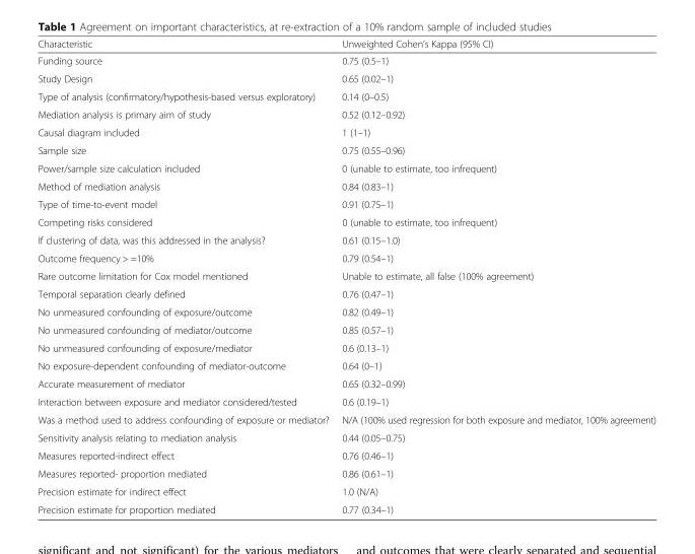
<table><thead><tr><td>Characteristic</td><td>Unweighted Cohen’s Kappa (95% CI)</td></tr></thead><tbody><tr><td>Funding source</td><td>0.75 (0.5–1)</td></tr><tr><td>Study Design</td><td>0.65 (0.02–1)</td></tr><tr><td>Type of analysis (confirmatory/hypothesis-based versus exploratory)</td><td>0.14 (0–0.5)</td></tr><tr><td>Mediation analysis is primary aim of study</td><td>0.52 (0.12–0.92)</td></tr><tr><td>Causal diagram included</td><td>1 (1–1)</td></tr><tr><td>Sample size</td><td>0.75 (0.55–0.96)</td></tr><tr><td>Power/sample size calculation included</td><td>0 (unable to estimate, too infrequent)</td></tr><tr><td>Method of mediation analysis</td><td>0.84 (0.83–1)</td></tr><tr><td>Type of time-to-event model</td><td>0.91 (0.75–1)</td></tr><tr><td>Competing risks considered</td><td>0 (unable to estimate, too infrequent)</td></tr><tr><td>If clustering of data, was this addressed in the analysis?</td><td>0.61 (0.15–1.0)</td></tr><tr><td>Outcome frequency &gt; =10%</td><td>0.79 (0.54–1)</td></tr><tr><td>Rare outcome limitation for Cox model mentioned</td><td>Unable to estimate, all false (100% agreement)</td></tr><tr><td>Temporal separation clearly defined</td><td>0.76 (0.47–1)</td></tr><tr><td>No unmeasured confounding of exposure/outcome</td><td>0.82 (0.49–1)</td></tr><tr><td>No unmeasured confounding of mediator/outcome</td><td>0.85 (0.57–1)</td></tr><tr><td>No unmeasured confounding of exposure/mediator</td><td>0.6 (0.13–1)</td></tr><tr><td>No exposure-dependent confounding of mediator-outcome</td><td>0.64 (0–1)</td></tr><tr><td>Accurate measurement of mediator</td><td>0.65 (0.32–0.99)</td></tr><tr><td>Interaction between exposure and mediator considered/tested</td><td>0.6 (0.19–1)</td></tr><tr><td>Was a method used to address confounding of exposure or mediator?</td><td>N/A (100% used regression for both exposure and mediator, 100% agreement)</td></tr><tr><td>Sensitivity analysis relating to mediation analysis</td><td>0.44 (0.05–0.75)</td></tr><tr><td>Measures reported-indirect effect</td><td>0.76 (0.46–1)</td></tr><tr><td>Measures reported- proportion mediated</td><td>0.86 (0.61–1)</td></tr><tr><td>Precision estimate for indirect effect</td><td>1.0 (N/A)</td></tr><tr><td>Precision estimate for proportion mediated</td><td>0.77 (0.34–1)</td></tr></tbody></table>